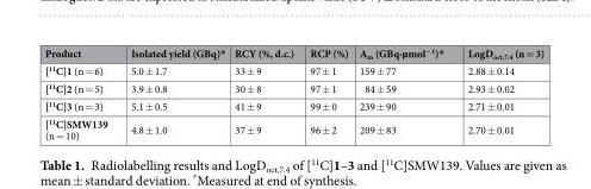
<table><thead><tr><td>Product</td><td>Isolated yield (GBq)*</td><td>RCY (%, d.c.)</td><td>RCP (%)</td><td>A<sub>m</sub> (GBq·µmol<sup>−1</sup>)*</td><td>LogD<sub>oct,7.4</sub> (n = 3)</td></tr></thead><tbody><tr><td>[<sup>11</sup>C]1 (n = 6)</td><td>5.0 ± 1.7</td><td>33 ± 9</td><td>97 ± 1</td><td>159 ± 77</td><td>2.88 ± 0.14</td></tr><tr><td>[<sup>11</sup>C]2 (n = 5)</td><td>3.9 ± 0.8</td><td>30 ± 8</td><td>97 ± 1</td><td>84 ± 59</td><td>2.93 ± 0.02</td></tr><tr><td>[<sup>11</sup>C]3 (n = 3)</td><td>5.1 ± 0.5</td><td>41 ± 9</td><td>99 ± 0</td><td>239 ± 90</td><td>2.71 ± 0.01</td></tr><tr><td>[<sup>11</sup>C]SMW139 (n = 10)</td><td>4.8 ± 1.0</td><td>37 ± 9</td><td>96 ± 2</td><td>209 ± 83</td><td>2.70 ± 0.01</td></tr></tbody></table>